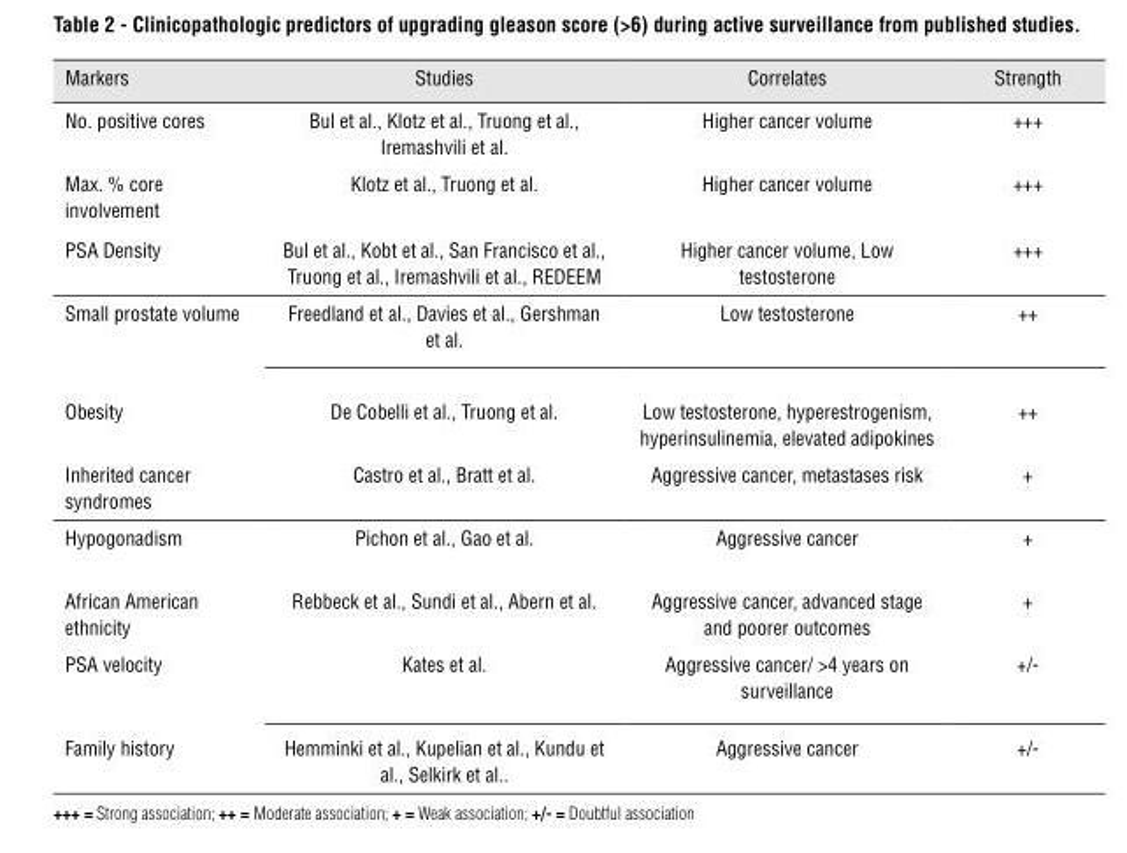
<table><thead><tr><td>Markers</td><td>Studies</td><td>Correlates</td><td>Strength</td></tr></thead><tbody><tr><td>No. positive cores</td><td>Bul et al., Klotz et al., Truong et al., Iremashvili et al.</td><td>Higher cancer volume</td><td>+++</td></tr><tr><td>Max. % core involvement</td><td>Klotz et al., Truong et al.</td><td>Higher cancer volume</td><td>+++</td></tr><tr><td>PSA Density</td><td>Bul et al., Kobt et al., San Francisco et al., Truong et al., Iremashvili et al., REDEEM</td><td>Higher cancer volume, Low testosterone</td><td>+++</td></tr><tr><td>Small prostate volume</td><td>Freedland et al., Davies et al., Gershman et al.</td><td>Low testosterone</td><td>++</td></tr><tr><td>Obesity</td><td>De Cobelli et al., Truong et al.</td><td>Low testosterone, hyperestrogenism, hyperinsulinemia, elevated adipokines</td><td>++</td></tr><tr><td>Inherited cancer syndromes</td><td>Castro et al., Bratt et al.</td><td>Aggressive cancer, metastases risk</td><td>+</td></tr><tr><td>Hypogonadism</td><td>Pichon et al., Gao et al.</td><td>Aggressive cancer</td><td>+</td></tr><tr><td>African American ethnicity</td><td>Rebbeck et al., Sundi et al., Abern et al.</td><td>Aggressive cancer, advanced stage and poorer outcomes</td><td>+</td></tr><tr><td>PSA velocity</td><td>Kates et al.</td><td>Aggressive cancer/ &gt;4 years on surveillance</td><td>+/-</td></tr><tr><td>Family history</td><td>Hemminki et al., Kupelian et al., Kundu et al., Selkirk et al..</td><td>Aggressive cancer</td><td>+/-</td></tr></tbody></table>